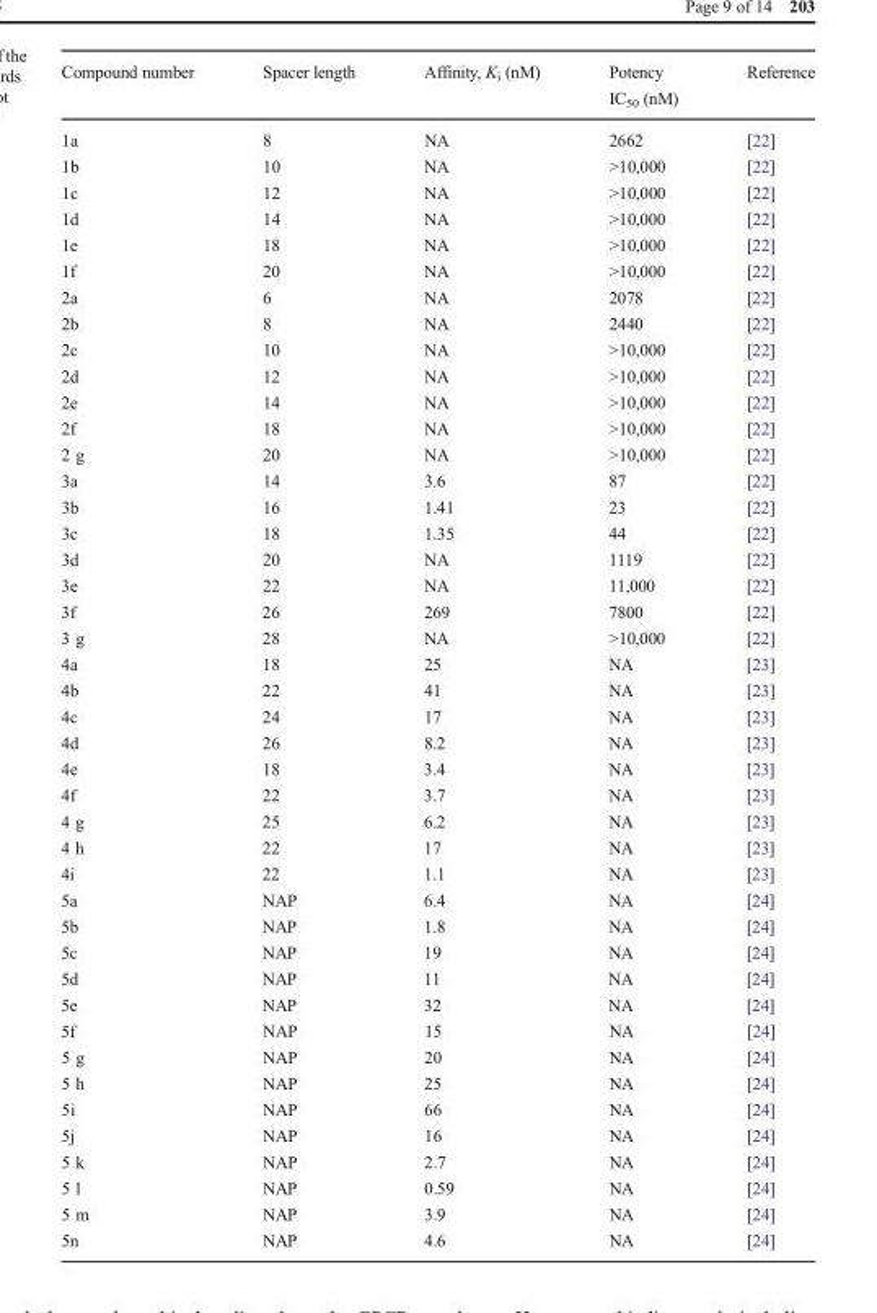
<table><thead><tr><td>Compound number</td><td>Spacer length</td><td>Affinity, K<sub>i</sub> (nM)</td><td>Potency IC<sub>50</sub> (nM)</td><td>Reference</td></tr></thead><tbody><tr><td>1a</td><td>8</td><td>NA</td><td>2662</td><td>[22]</td></tr><tr><td>1b</td><td>10</td><td>NA</td><td>&gt;10,000</td><td>[22]</td></tr><tr><td>1c</td><td>12</td><td>NA</td><td>&gt;10,000</td><td>[22]</td></tr><tr><td>1d</td><td>14</td><td>NA</td><td>&gt;10,000</td><td>[22]</td></tr><tr><td>1e</td><td>18</td><td>NA</td><td>&gt;10,000</td><td>[22]</td></tr><tr><td>1f</td><td>20</td><td>NA</td><td>&gt;10,000</td><td>[22]</td></tr><tr><td>2a</td><td>6</td><td>NA</td><td>2078</td><td>[22]</td></tr><tr><td>2b</td><td>8</td><td>NA</td><td>2440</td><td>[22]</td></tr><tr><td>2c</td><td>10</td><td>NA</td><td>&gt;10,000</td><td>[22]</td></tr><tr><td>2d</td><td>12</td><td>NA</td><td>&gt;10,000</td><td>[22]</td></tr><tr><td>2e</td><td>14</td><td>NA</td><td>&gt;10,000</td><td>[22]</td></tr><tr><td>2f</td><td>18</td><td>NA</td><td>&gt;10,000</td><td>[22]</td></tr><tr><td>2 g</td><td>20</td><td>NA</td><td>&gt;10,000</td><td>[22]</td></tr><tr><td>3a</td><td>14</td><td>3.6</td><td>87</td><td>[22]</td></tr><tr><td>3b</td><td>16</td><td>1.41</td><td>23</td><td>[22]</td></tr><tr><td>3c</td><td>18</td><td>1.35</td><td>44</td><td>[22]</td></tr><tr><td>3d</td><td>20</td><td>NA</td><td>1119</td><td>[22]</td></tr><tr><td>3e</td><td>22</td><td>NA</td><td>11,000</td><td>[22]</td></tr><tr><td>3f</td><td>26</td><td>269</td><td>7800</td><td>[22]</td></tr><tr><td>3 g</td><td>28</td><td>NA</td><td>&gt;10,000</td><td>[22]</td></tr><tr><td>4a</td><td>18</td><td>25</td><td>NA</td><td>[23]</td></tr><tr><td>4b</td><td>22</td><td>41</td><td>NA</td><td>[23]</td></tr><tr><td>4c</td><td>24</td><td>17</td><td>NA</td><td>[23]</td></tr><tr><td>4d</td><td>26</td><td>8.2</td><td>NA</td><td>[23]</td></tr><tr><td>4e</td><td>18</td><td>3.4</td><td>NA</td><td>[23]</td></tr><tr><td>4f</td><td>22</td><td>3.7</td><td>NA</td><td>[23]</td></tr><tr><td>4 g</td><td>25</td><td>6.2</td><td>NA</td><td>[23]</td></tr><tr><td>4 h</td><td>22</td><td>17</td><td>NA</td><td>[23]</td></tr><tr><td>4i</td><td>22</td><td>1.1</td><td>NA</td><td>[23]</td></tr><tr><td>5a</td><td>NAP</td><td>6.4</td><td>NA</td><td>[24]</td></tr><tr><td>5b</td><td>NAP</td><td>1.8</td><td>NA</td><td>[24]</td></tr><tr><td>5c</td><td>NAP</td><td>19</td><td>NA</td><td>[24]</td></tr><tr><td>5d</td><td>NAP</td><td>11</td><td>NA</td><td>[24]</td></tr><tr><td>5e</td><td>NAP</td><td>32</td><td>NA</td><td>[24]</td></tr><tr><td>5f</td><td>NAP</td><td>15</td><td>NA</td><td>[24]</td></tr><tr><td>5 g</td><td>NAP</td><td>20</td><td>NA</td><td>[24]</td></tr><tr><td>5 h</td><td>NAP</td><td>25</td><td>NA</td><td>[24]</td></tr><tr><td>5i</td><td>NAP</td><td>66</td><td>NA</td><td>[24]</td></tr><tr><td>5j</td><td>NAP</td><td>16</td><td>NA</td><td>[24]</td></tr><tr><td>5 k</td><td>NAP</td><td>2.7</td><td>NA</td><td>[24]</td></tr><tr><td>5 l</td><td>NAP</td><td>0.59</td><td>NA</td><td>[24]</td></tr><tr><td>5 m</td><td>NAP</td><td>3.9</td><td>NA</td><td>[24]</td></tr><tr><td>5n</td><td>NAP</td><td>4.6</td><td>NA</td><td>[24]</td></tr></tbody></table>